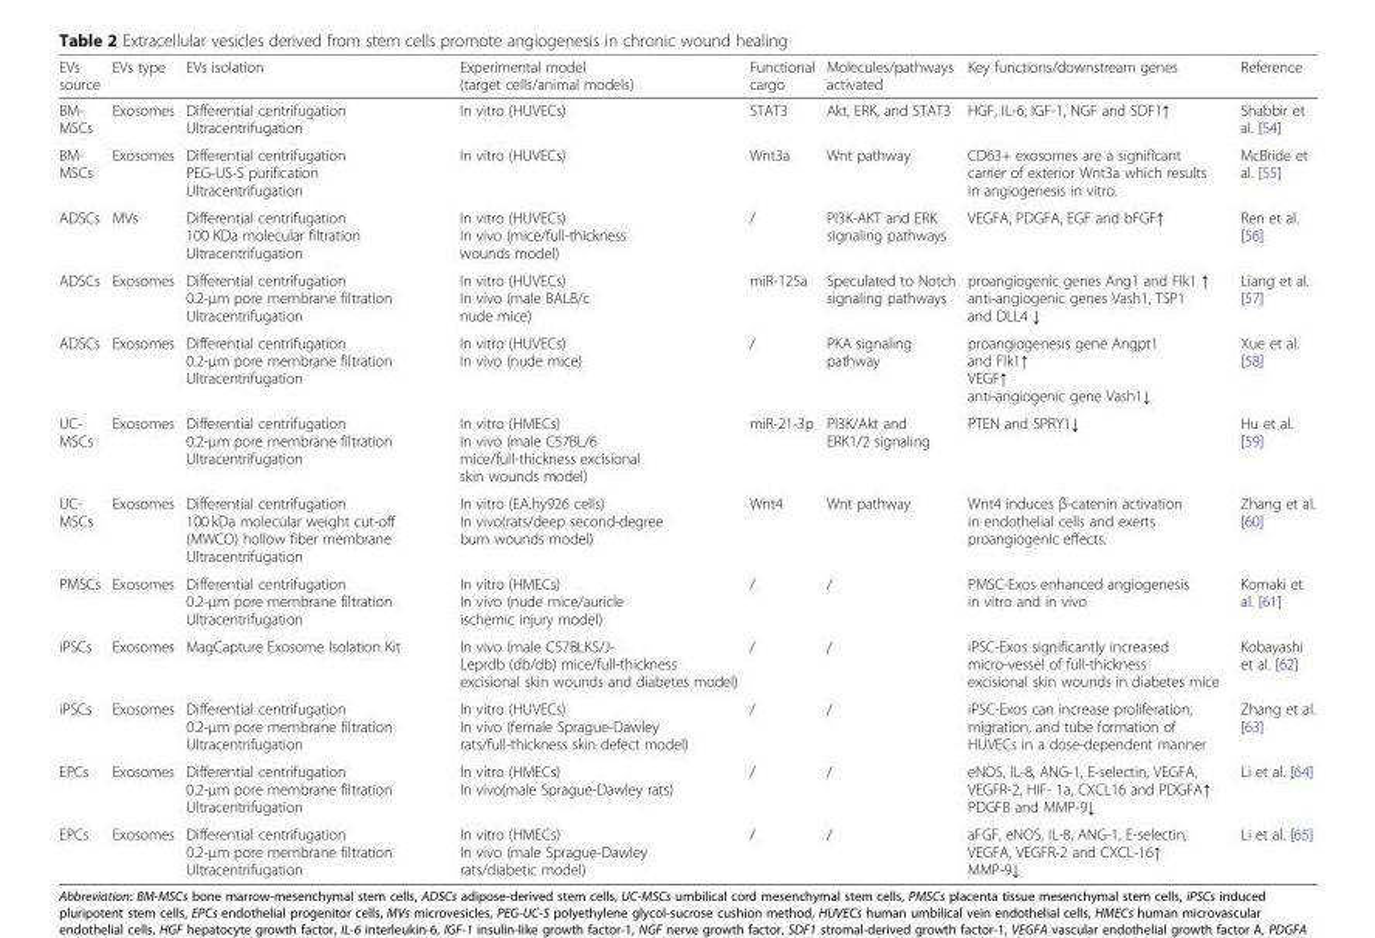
<table><thead><tr><td>EVs source</td><td>EVs type</td><td>EVs isolation</td><td>Experimental model (target cells/animal models)</td><td>Functional cargo</td><td>Molecules/pathways activated</td><td>Key functions/downstream genes</td><td>Reference</td></tr></thead><tbody><tr><td>BM- MSCs</td><td>Exosomes</td><td>Differential centrifugation Ultracentrifugation</td><td>In vitro (HUVECs)</td><td>STAT3</td><td>Akt, ERK, and STAT3</td><td>HGF, IL-6, IGF-1, NGF and SDF1↑</td><td>Shabbir et al. [54]</td></tr><tr><td>BM- MSCs</td><td>Exosomes</td><td>Differential centrifugation PEG-US-S purification Ultracentrifugation</td><td>In vitro (HUVECs)</td><td>Wnt3a</td><td>Wnt pathway</td><td>CD63+ exosomes are a significant carrier of exterior Wnt3a which results in angiogenesis in vitro.</td><td>McBride et al. [55]</td></tr><tr><td>ADSCs</td><td>MVs</td><td>Differential centrifugation 100 KDa molecular filtration Ultracentrifugation</td><td>In vitro (HUVECs) In vivo (mice/full-thickness wounds model)</td><td>/</td><td>PI3K-AKT and ERK signaling pathways</td><td>VEGFA, PDGFA, EGF and bFGF↑</td><td>Ren et al. [56]</td></tr><tr><td>ADSCs</td><td>Exosomes</td><td>Differential centrifugation 0.2-μm pore membrane filtration Ultracentrifugation</td><td>In vitro (HUVECs) In vivo (male BALB/c nude mice)</td><td>miR-125a</td><td>Speculated to Notch signaling pathways</td><td>proangiogenic genes Ang1 and Flk1 ↑ anti-angiogenic genes Vash1, TSP1 and DLL4 ↓</td><td>Liang et al. [57]</td></tr><tr><td>ADSCs</td><td>Exosomes</td><td>Differential centrifugation 0.2-μm pore membrane filtration Ultracentrifugation</td><td>In vitro (HUVECs) In vivo (nude mice)</td><td>/</td><td>PKA signaling pathway</td><td>proangiogenesis gene Angpt1 and Flk1↑ VEGF↑ anti-angiogenic gene Vash1↓</td><td>Xue et al. [58]</td></tr><tr><td>UC- MSCs</td><td>Exosomes</td><td>Differential centrifugation 0.2-μm pore membrane filtration Ultracentrifugation</td><td>In vitro (HMECs) In vivo (male C57BL/6 mice/full-thickness excisional skin wounds model)</td><td>miR-21-3p</td><td>PI3K/Akt and ERK1/2 signaling</td><td>PTEN and SPRY1↓</td><td>Hu et al. [59]</td></tr><tr><td>UC- MSCs</td><td>Exosomes</td><td>Differential centrifugation 100 kDa molecular weight cut-off (MWCO) hollow fiber membrane Ultracentrifugation</td><td>In vitro (EA.hy926 cells) In vivo(rats/deep second-degree burn wounds model)</td><td>Wnt4</td><td>Wnt pathway</td><td>Wnt4 induces β-catenin activation in endothelial cells and exerts proangiogenic effects.</td><td>Zhang et al. [60]</td></tr><tr><td>PMSCs</td><td>Exosomes</td><td>Differential centrifugation 0.2-μm pore membrane filtration Ultracentrifugation</td><td>In vitro (HMECs) In vivo (nude mice/auricle ischemic injury model)</td><td>/</td><td>/</td><td>PMSC-Exos enhanced angiogenesis in vitro and in vivo</td><td>Komaki et al. [61]</td></tr><tr><td>iPSCs</td><td>Exosomes</td><td>MagCapture Exosome Isolation Kit</td><td>In vivo (male C57BLKS/J- Leprdb (db/db) mice/full-thickness excisional skin wounds and diabetes model)</td><td>/</td><td>/</td><td>iPSC-Exos significantly increased micro-vessel of full-thickness excisional skin wounds in diabetes mice</td><td>Kobayashi et al. [62]</td></tr><tr><td>iPSCs</td><td>Exosomes</td><td>Differential centrifugation 0.2-μm pore membrane filtration Ultracentrifugation</td><td>In vitro (HUVECs) In vivo (female Sprague-Dawley rats/full-thickness skin defect model)</td><td>/</td><td>/</td><td>iPSC-Exos can increase proliferation, migration, and tube formation of HUVECs in a dose-dependent manner</td><td>Zhang et al. [63]</td></tr><tr><td>EPCs</td><td>Exosomes</td><td>Differential centrifugation 0.2-μm pore membrane filtration Ultracentrifugation</td><td>In vitro (HMECs) In vivo(male Sprague-Dawley rats)</td><td>/</td><td>/</td><td>eNOS, IL-8, ANG-1, E-selectin, VEGFA, VEGFR-2, HIF- 1a, CXCL16 and PDGFA↑ PDGFB and MMP-9↓</td><td>Li et al. [64]</td></tr><tr><td>EPCs</td><td>Exosomes</td><td>Differential centrifugation 0.2-μm pore membrane filtration Ultracentrifugation</td><td>In vitro (HMECs) In vivo (male Sprague-Dawley rats/diabetic model)</td><td>/</td><td>/</td><td>aFGF, eNOS, IL-8, ANG-1, E-selectin, VEGFA, VEGFR-2 and CXCL-16↑ MMP-9↓</td><td>Li et al. [65]</td></tr></tbody></table>